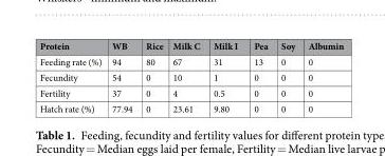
<table><thead><tr><td>Protein</td><td>WB</td><td>Rice</td><td>Milk C</td><td>Milk I</td><td>Pea</td><td>Soy</td><td>Albumin</td></tr></thead><tbody><tr><td>Feeding rate (%)</td><td>94</td><td>80</td><td>67</td><td>31</td><td>13</td><td>0</td><td>0</td></tr><tr><td>Fecundity</td><td>54</td><td>0</td><td>10</td><td>1</td><td>0</td><td>0</td><td>0</td></tr><tr><td>Fertility</td><td>37</td><td>0</td><td>4</td><td>0.5</td><td>0</td><td>0</td><td>0</td></tr><tr><td>Hatch rate (%)</td><td>77.94</td><td>0</td><td>23.61</td><td>9.80</td><td>0</td><td>0</td><td>0</td></tr></tbody></table>